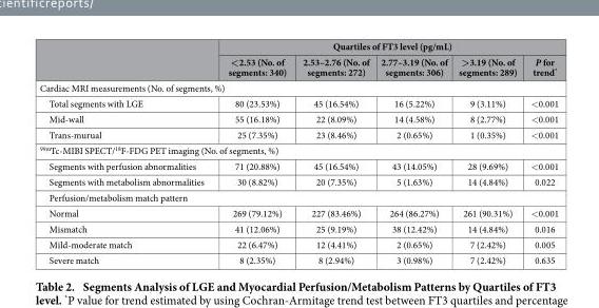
<table><thead><tr><td rowspan="2"></td><td colspan="5">Quartiles of FT3 level (pg/mL)</td></tr><tr><td>&lt;2.53 (No. of segments: 340)</td><td>2.53–2.76 (No. of segments: 272)</td><td>2.77–3.19 (No. of segments: 306)</td><td>&gt;3.19 (No. of segments: 289)</td><td>P for trend*</td></tr></thead><tbody><tr><td colspan="6">Cardiac MRI measurements (No. of segments, %)</td></tr><tr><td>Total segments with LGE</td><td>80 (23.53%)</td><td>45 (16.54%)</td><td>16 (5.22%)</td><td>9 (3.11%)</td><td>&lt; 0.001</td></tr><tr><td>Mid-wall</td><td>55 (16.18%)</td><td>22 (8.09%)</td><td>14 (4.58%)</td><td>8 (2.77%)</td><td>&lt; 0.001</td></tr><tr><td>Trans-murual</td><td>25 (7.35%)</td><td>23 (8.46%)</td><td>2 (0.65%)</td><td>1 (0.35%)</td><td>&lt; 0.001</td></tr><tr><td colspan="6"><sup>99m</sup>Tc-MIBI SPECT/<sup>18</sup>F-FDG PET imaging (No. of segments, %)</td></tr><tr><td>Segments with perfusion abnormalities</td><td>71 (20.88%)</td><td>45 (16.54%)</td><td>43 (14.05%)</td><td>28 (9.69%)</td><td>&lt; 0.001</td></tr><tr><td>Segments with metabolism abnormalities</td><td>30 (8.82%)</td><td>20 (7.35%)</td><td>5 (1.63%)</td><td>14 (4.84%)</td><td>0.022</td></tr><tr><td colspan="6">Perfusion/metabolism match pattern</td></tr><tr><td>Normal</td><td>269 (79.12%)</td><td>227 (83.46%)</td><td>264 (86.27%)</td><td>261 (90.31%)</td><td>&lt; 0.001</td></tr><tr><td>Mismatch</td><td>41 (12.06%)</td><td>25 (9.19%)</td><td>38 (12.42%)</td><td>14 (4.84%)</td><td>0.016</td></tr><tr><td>Mild-moderate match</td><td>22 (6.47%)</td><td>12 (4.41%)</td><td>2 (0.65%)</td><td>7 (2.42%)</td><td>0.005</td></tr><tr><td>Severe match</td><td>8 (2.35%)</td><td>8 (2.94%)</td><td>3 (0.98%)</td><td>7 (2.42%)</td><td>0.635</td></tr></tbody></table>